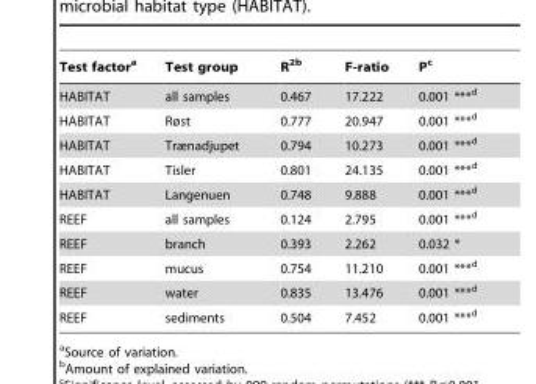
<table><thead><tr><td>Test factor<sup>a</sup></td><td>Test group</td><td>R<sup>2</sup>b</td><td>F-ratio</td><td>P<sup>c</sup></td></tr></thead><tbody><tr><td>HABITAT</td><td>all samples</td><td>0.467</td><td>17.222</td><td>0.001 ***<sup>d</sup></td></tr><tr><td>HABITAT</td><td>Røst</td><td>0.777</td><td>20.947</td><td>0.001 ***<sup>d</sup></td></tr><tr><td>HABITAT</td><td>Trænadjupet</td><td>0.794</td><td>10.273</td><td>0.001 ***<sup>d</sup></td></tr><tr><td>HABITAT</td><td>Tisler</td><td>0.801</td><td>24.135</td><td>0.001 ***<sup>d</sup></td></tr><tr><td>HABITAT</td><td>Langenuen</td><td>0.748</td><td>9.888</td><td>0.001 ***<sup>d</sup></td></tr><tr><td>REEF</td><td>all samples</td><td>0.124</td><td>2.795</td><td>0.001 ***<sup>d</sup></td></tr><tr><td>REEF</td><td>branch</td><td>0.393</td><td>2.262</td><td>0.032 *</td></tr><tr><td>REEF</td><td>mucus</td><td>0.754</td><td>11.210</td><td>0.001 ***<sup>d</sup></td></tr><tr><td>REEF</td><td>water</td><td>0.835</td><td>13.476</td><td>0.001 ***<sup>d</sup></td></tr><tr><td>REEF</td><td>sediments</td><td>0.504</td><td>7.452</td><td>0.001 ***<sup>d</sup></td></tr></tbody></table>